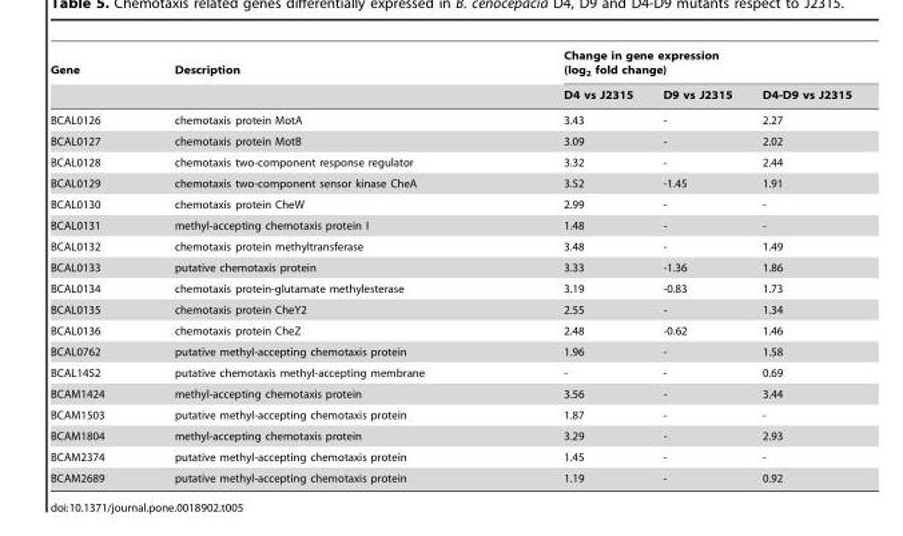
<table><thead><tr><td rowspan="2">Gene</td><td rowspan="2">Description</td><td colspan="3">Change in gene expression (log<sub>2</sub> fold change)</td></tr><tr><td>D4 vs J2315</td><td>D9 vs J2315</td><td>D4-D9 vs J2315</td></tr></thead><tbody><tr><td>BCAL0126</td><td>chemotaxis protein MotA</td><td>3.43</td><td>-</td><td>2.27</td></tr><tr><td>BCAL0127</td><td>chemotaxis protein MotB</td><td>3.09</td><td>-</td><td>2.02</td></tr><tr><td>BCAL0128</td><td>chemotaxis two-component response regulator</td><td>3.32</td><td>-</td><td>2.44</td></tr><tr><td>BCAL0129</td><td>chemotaxis two-component sensor kinase CheA</td><td>3.52</td><td>-1.45</td><td>1.91</td></tr><tr><td>BCAL0130</td><td>chemotaxis protein CheW</td><td>2.99</td><td>-</td><td>-</td></tr><tr><td>BCAL0131</td><td>methyl-accepting chemotaxis protein I</td><td>1.48</td><td>-</td><td>-</td></tr><tr><td>BCAL0132</td><td>chemotaxis protein methyltransferase</td><td>3.48</td><td>-</td><td>1.49</td></tr><tr><td>BCAL0133</td><td>putative chemotaxis protein</td><td>3.33</td><td>-1.36</td><td>1.86</td></tr><tr><td>BCAL0134</td><td>chemotaxis protein-glutamate methylesterase</td><td>3.19</td><td>-0.83</td><td>1.73</td></tr><tr><td>BCAL0135</td><td>chemotaxis protein CheY2</td><td>2.55</td><td>-</td><td>1.34</td></tr><tr><td>BCAL0136</td><td>chemotaxis protein CheZ</td><td>2.48</td><td>-0.62</td><td>1.46</td></tr><tr><td>BCAL0762</td><td>putative methyl-accepting chemotaxis protein</td><td>1.96</td><td>-</td><td>1.58</td></tr><tr><td>BCAL1452</td><td>putative chemotaxis methyl-accepting membrane</td><td>-</td><td>-</td><td>0.69</td></tr><tr><td>BCAM1424</td><td>methyl-accepting chemotaxis protein</td><td>3.56</td><td>-</td><td>3.44</td></tr><tr><td>BCAM1503</td><td>putative methyl-accepting chemotaxis protein</td><td>1.87</td><td>-</td><td>-</td></tr><tr><td>BCAM1804</td><td>methyl-accepting chemotaxis protein</td><td>3.29</td><td>-</td><td>2.93</td></tr><tr><td>BCAM2374</td><td>putative methyl-accepting chemotaxis protein</td><td>1.45</td><td>-</td><td>-</td></tr><tr><td>BCAM2689</td><td>putative methyl-accepting chemotaxis protein</td><td>1.19</td><td>-</td><td>0.92</td></tr></tbody></table>